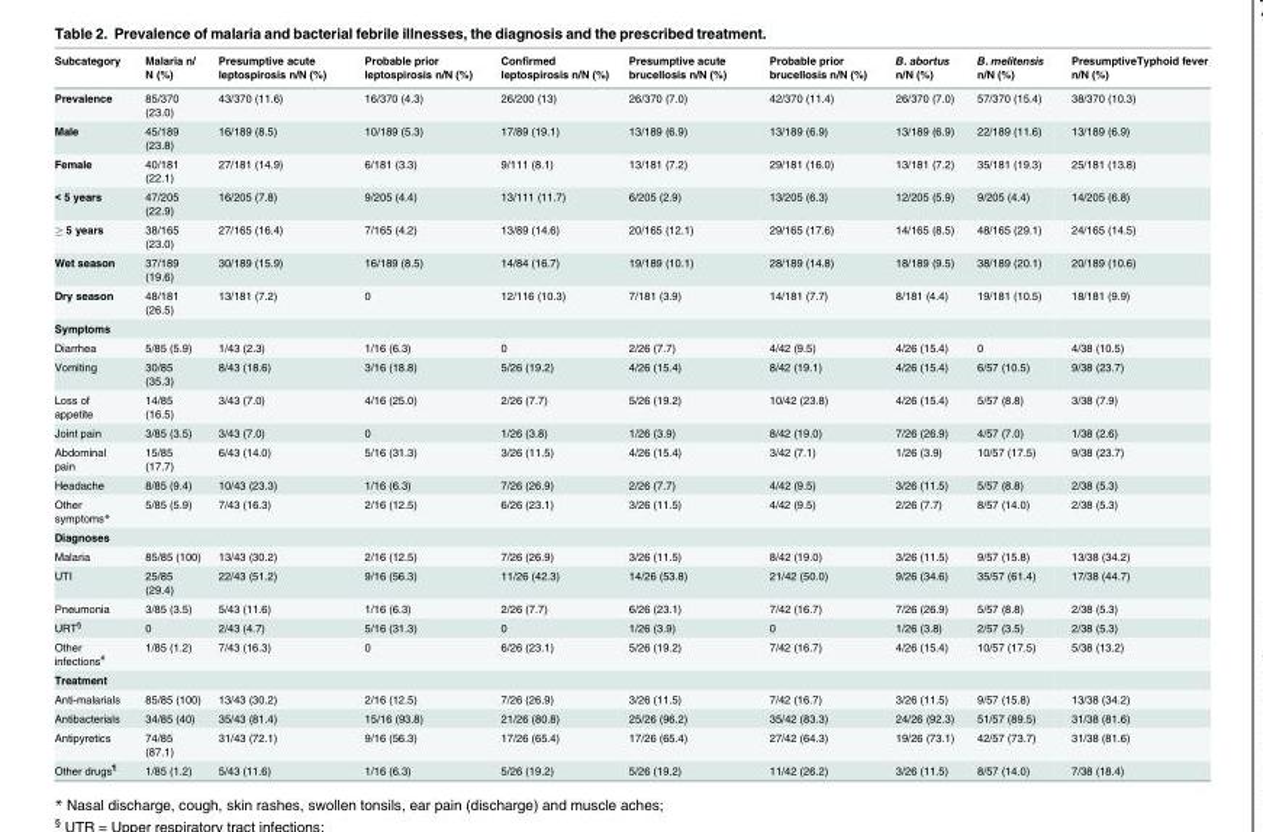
<table><thead><tr><td>Subcategory</td><td>Malaria n/ N (%)</td><td>Presumptive acute leptospirosis n/N (%)</td><td>Probable prior leptospirosis n/N (%)</td><td>Confirmed leptospirosis n/N (%)</td><td>Presumptive acute brucellosis n/N (%)</td><td>Probable prior brucellosis n/N (%)</td><td>B. abortus n/N (%)</td><td>B. melitensis n/N (%)</td><td>PresumptiveTyphoid fever n/N (%)</td></tr></thead><tbody><tr><td>Prevalence</td><td>85/370 (23.0)</td><td>43/370 (11.6)</td><td>16/370 (4.3)</td><td>26/200 (13)</td><td>26/370 (7.0)</td><td>42/370 (11.4)</td><td>26/370 (7.0)</td><td>57/370 (15.4)</td><td>38/370 (10.3)</td></tr><tr><td>Male</td><td>45/189 (23.8)</td><td>16/189 (8.5)</td><td>10/189 (5.3)</td><td>17/89 (19.1)</td><td>13/189 (6.9)</td><td>13/189 (6.9)</td><td>13/189 (6.9)</td><td>22/189 (11.6)</td><td>13/189 (6.9)</td></tr><tr><td>Female</td><td>40/181 (22.1)</td><td>27/181 (14.9)</td><td>6/181 (3.3)</td><td>9/111 (8.1)</td><td>13/181 (7.2)</td><td>29/181 (16.0)</td><td>13/181 (7.2)</td><td>35/181 (19.3)</td><td>25/181 (13.8)</td></tr><tr><td>&lt; 5 years</td><td>47/205 (22.9)</td><td>16/205 (7.8)</td><td>9/205 (4.4)</td><td>13/111 (11.7)</td><td>6/205 (2.9)</td><td>13/205 (6.3)</td><td>12/205 (5.9)</td><td>9/205 (4.4)</td><td>14/205 (6.8)</td></tr><tr><td>≥ 5 years</td><td>38/165 (23.0)</td><td>27/165 (16.4)</td><td>7/165 (4.2)</td><td>13/89 (14.6)</td><td>20/165 (12.1)</td><td>29/165 (17.6)</td><td>14/165 (8.5)</td><td>48/165 (29.1)</td><td>24/165 (14.5)</td></tr><tr><td>Wet season</td><td>37/189 (19.6)</td><td>30/189 (15.9)</td><td>16/189 (8.5)</td><td>14/84 (16.7)</td><td>19/189 (10.1)</td><td>28/189 (14.8)</td><td>18/189 (9.5)</td><td>38/189 (20.1)</td><td>20/189 (10.6)</td></tr><tr><td>Dry season</td><td>48/181 (26.5)</td><td>13/181 (7.2)</td><td>0</td><td>12/116 (10.3)</td><td>7/181 (3.9)</td><td>14/181 (7.7)</td><td>8/181 (4.4)</td><td>19/181 (10.5)</td><td>18/181 (9.9)</td></tr><tr><td colspan="10">Symptoms</td></tr><tr><td>Diarrhea</td><td>5/85 (5.9)</td><td>1/43 (2.3)</td><td>1/16 (6.3)</td><td>0</td><td>2/26 (7.7)</td><td>4/42 (9.5)</td><td>4/26 (15.4)</td><td>0</td><td>4/38 (10.5)</td></tr><tr><td>Vomiting</td><td>30/85 (35.3)</td><td>8/43 (18.6)</td><td>3/16 (18.8)</td><td>5/26 (19.2)</td><td>4/26 (15.4)</td><td>8/42 (19.1)</td><td>4/26 (15.4)</td><td>6/57 (10.5)</td><td>9/38 (23.7)</td></tr><tr><td>Loss of appetite</td><td>14/85 (16.5)</td><td>3/43 (7.0)</td><td>4/16 (25.0)</td><td>2/26 (7.7)</td><td>5/26 (19.2)</td><td>10/42 (23.8)</td><td>4/26 (15.4)</td><td>5/57 (8.8)</td><td>3/38 (7.9)</td></tr><tr><td>Joint pain</td><td>3/85 (3.5)</td><td>3/43 (7.0)</td><td>0</td><td>1/26 (3.8)</td><td>1/26 (3.9)</td><td>8/42 (19.0)</td><td>7/26 (26.9)</td><td>4/57 (7.0)</td><td>1/38 (2.6)</td></tr><tr><td>Abdominal pain</td><td>15/85 (17.7)</td><td>6/43 (14.0)</td><td>5/16 (31.3)</td><td>3/26 (11.5)</td><td>4/26 (15.4)</td><td>3/42 (7.1)</td><td>1/26 (3.9)</td><td>10/57 (17.5)</td><td>9/38 (23.7)</td></tr><tr><td>Headache</td><td>8/85 (9.4)</td><td>10/43 (23.3)</td><td>1/16 (6.3)</td><td>7/26 (26.9)</td><td>2/26 (7.7)</td><td>4/42 (9.5)</td><td>3/26 (11.5)</td><td>5/57 (8.8)</td><td>2/38 (5.3)</td></tr><tr><td>Other symptoms*</td><td>5/85 (5.9)</td><td>7/43 (16.3)</td><td>2/16 (12.5)</td><td>6/26 (23.1)</td><td>3/26 (11.5)</td><td>4/42 (9.5)</td><td>2/26 (7.7)</td><td>8/57 (14.0)</td><td>2/38 (5.3)</td></tr><tr><td colspan="10">Diagnoses</td></tr><tr><td>Malaria</td><td>85/85 (100)</td><td>13/43 (30.2)</td><td>2/16 (12.5)</td><td>7/26 (26.9)</td><td>3/26 (11.5)</td><td>8/42 (19.0)</td><td>3/26 (11.5)</td><td>9/57 (15.8)</td><td>13/38 (34.2)</td></tr><tr><td>UTI</td><td>25/85 (29.4)</td><td>22/43 (51.2)</td><td>9/16 (56.3)</td><td>11/26 (42.3)</td><td>14/26 (53.8)</td><td>21/42 (50.0)</td><td>9/26 (34.6)</td><td>35/57 (61.4)</td><td>17/38 (44.7)</td></tr><tr><td>Pneumonia</td><td>3/85 (3.5)</td><td>5/43 (11.6)</td><td>1/16 (6.3)</td><td>2/26 (7.7)</td><td>6/26 (23.1)</td><td>7/42 (16.7)</td><td>7/26 (26.9)</td><td>5/57 (8.8)</td><td>2/38 (5.3)</td></tr><tr><td>URT<sup>§</sup></td><td>0</td><td>2/43 (4.7)</td><td>5/16 (31.3)</td><td>0</td><td>1/26 (3.9)</td><td>0</td><td>1/26 (3.8)</td><td>2/57 (3.5)</td><td>2/38 (5.3)</td></tr><tr><td>Other infections<sup>#</sup></td><td>1/85 (1.2)</td><td>7/43 (16.3)</td><td>0</td><td>6/26 (23.1)</td><td>5/26 (19.2)</td><td>7/42 (16.7)</td><td>4/26 (15.4)</td><td>10/57 (17.5)</td><td>5/38 (13.2)</td></tr><tr><td colspan="10">Treatment</td></tr><tr><td>Anti-malarials</td><td>85/85 (100)</td><td>13/43 (30.2)</td><td>2/16 (12.5)</td><td>7/26 (26.9)</td><td>3/26 (11.5)</td><td>7/42 (16.7)</td><td>3/26 (11.5)</td><td>9/57 (15.8)</td><td>13/38 (34.2)</td></tr><tr><td>Antibacterials</td><td>34/85 (40)</td><td>35/43 (81.4)</td><td>15/16 (93.8)</td><td>21/26 (80.8)</td><td>25/26 (96.2)</td><td>35/42 (83.3)</td><td>24/26 (92.3)</td><td>51/57 (89.5)</td><td>31/38 (81.6)</td></tr><tr><td>Antipyretics</td><td>74/85 (87.1)</td><td>31/43 (72.1)</td><td>9/16 (56.3)</td><td>17/26 (65.4)</td><td>17/26 (65.4)</td><td>27/42 (64.3)</td><td>19/26 (73.1)</td><td>42/57 (73.7)</td><td>31/38 (81.6)</td></tr><tr><td>Other drugs<sup>¶</sup></td><td>1/85 (1.2)</td><td>5/43 (11.6)</td><td>1/16 (6.3)</td><td>5/26 (19.2)</td><td>5/26 (19.2)</td><td>11/42 (26.2)</td><td>3/26 (11.5)</td><td>8/57 (14.0)</td><td>7/38 (18.4)</td></tr></tbody></table>